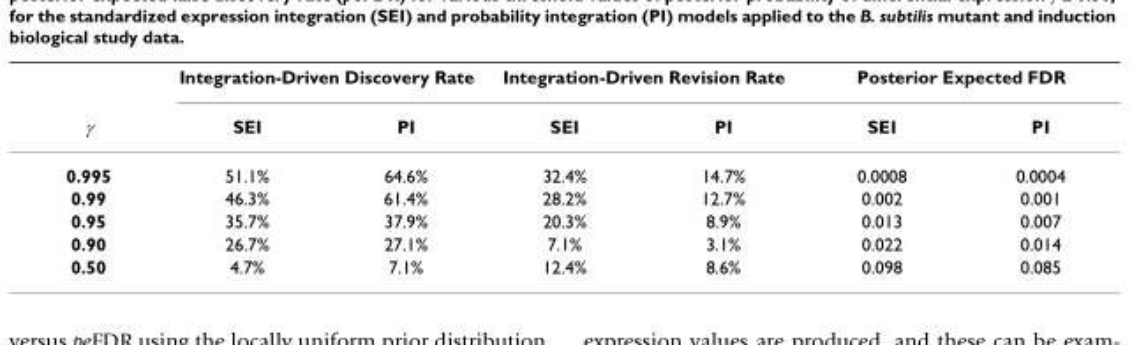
<table><thead><tr><td rowspan="2">γ</td><td colspan="2">Integration-Driven Discovery Rate</td><td colspan="2">Integration-Driven Revision Rate</td><td colspan="2">Posterior Expected FDR</td></tr><tr><td>SEI</td><td>PI</td><td>SEI</td><td>PI</td><td>SEI</td><td>PI</td></tr></thead><tbody><tr><td>0.995</td><td>51.1%</td><td>64.6%</td><td>32.4%</td><td>14.7%</td><td>0.0008</td><td>0.0004</td></tr><tr><td>0.99</td><td>46.3%</td><td>61.4%</td><td>28.2%</td><td>12.7%</td><td>0.002</td><td>0.001</td></tr><tr><td>0.95</td><td>35.7%</td><td>37.9%</td><td>20.3%</td><td>8.9%</td><td>0.013</td><td>0.007</td></tr><tr><td>0.90</td><td>26.7%</td><td>27.1%</td><td>7.1%</td><td>3.1%</td><td>0.022</td><td>0.014</td></tr><tr><td>0.50</td><td>4.7%</td><td>7.1%</td><td>12.4%</td><td>8.6%</td><td>0.098</td><td>0.085</td></tr></tbody></table>